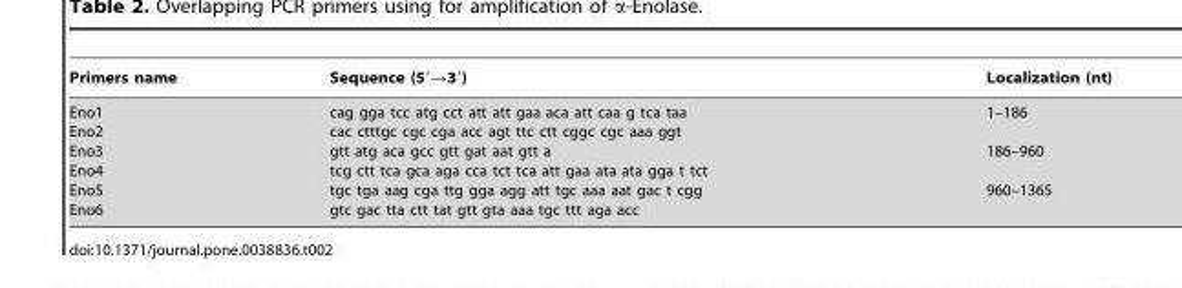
<table><thead><tr><td>Primers name</td><td>Sequence (5′→3′)</td><td>Localization (nt)</td></tr></thead><tbody><tr><td>Eno1 Eno2 Eno3 Eno4 Eno5 Eno6</td><td>cag gga tcc atg cct att att gaa aca att caa g tca taa cac ctttgc cgc cga acc agt ttc ctt cggc cgc aaa ggt gtt atg aca gcc gtt gat aat gtt a tcg ctt tca gca aga cca tct tca att gaa ata ata gga t tct tgc tga aag cga ttg gga agg att tgc aaa aat gac t cgg gtc gac tta ctt tat gtt gta aaa tgc ttt aga acc</td><td>1–186 186–960 960–1365</td></tr></tbody></table>